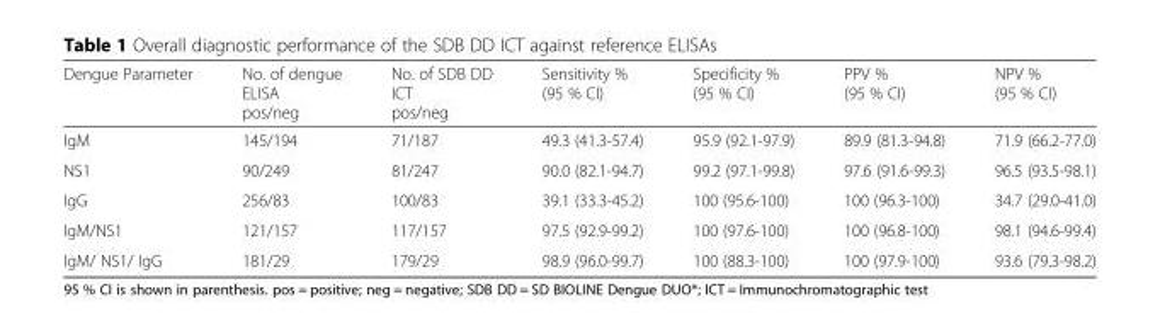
<table><thead><tr><td>Dengue Parameter</td><td>No. of dengue ELISA pos/neg</td><td>No. of SDB DD ICT pos/neg</td><td>Sensitivity % (95 % CI)</td><td>Specificity % (95 % CI)</td><td>PPV % (95 % CI)</td><td>NPV % (95 % CI)</td></tr></thead><tbody><tr><td>IgM</td><td>145/194</td><td>71/187</td><td>49.3 (41.3-57.4)</td><td>95.9 (92.1-97.9)</td><td>89.9 (81.3-94.8)</td><td>71.9 (66.2-77.0)</td></tr><tr><td>NS1</td><td>90/249</td><td>81/247</td><td>90.0 (82.1-94.7)</td><td>99.2 (97.1-99.8)</td><td>97.6 (91.6-99.3)</td><td>96.5 (93.5-98.1)</td></tr><tr><td>IgG</td><td>256/83</td><td>100/83</td><td>39.1 (33.3-45.2)</td><td>100 (95.6-100)</td><td>100 (96.3-100)</td><td>34.7 (29.0-41.0)</td></tr><tr><td>IgM/NS1</td><td>121/157</td><td>117/157</td><td>97.5 (92.9-99.2)</td><td>100 (97.6-100)</td><td>100 (96.8-100)</td><td>98.1 (94.6-99.4)</td></tr><tr><td>IgM/ NS1/ IgG</td><td>181/29</td><td>179/29</td><td>98.9 (96.0-99.7)</td><td>100 (88.3-100)</td><td>100 (97.9-100)</td><td>93.6 (79.3-98.2)</td></tr></tbody></table>